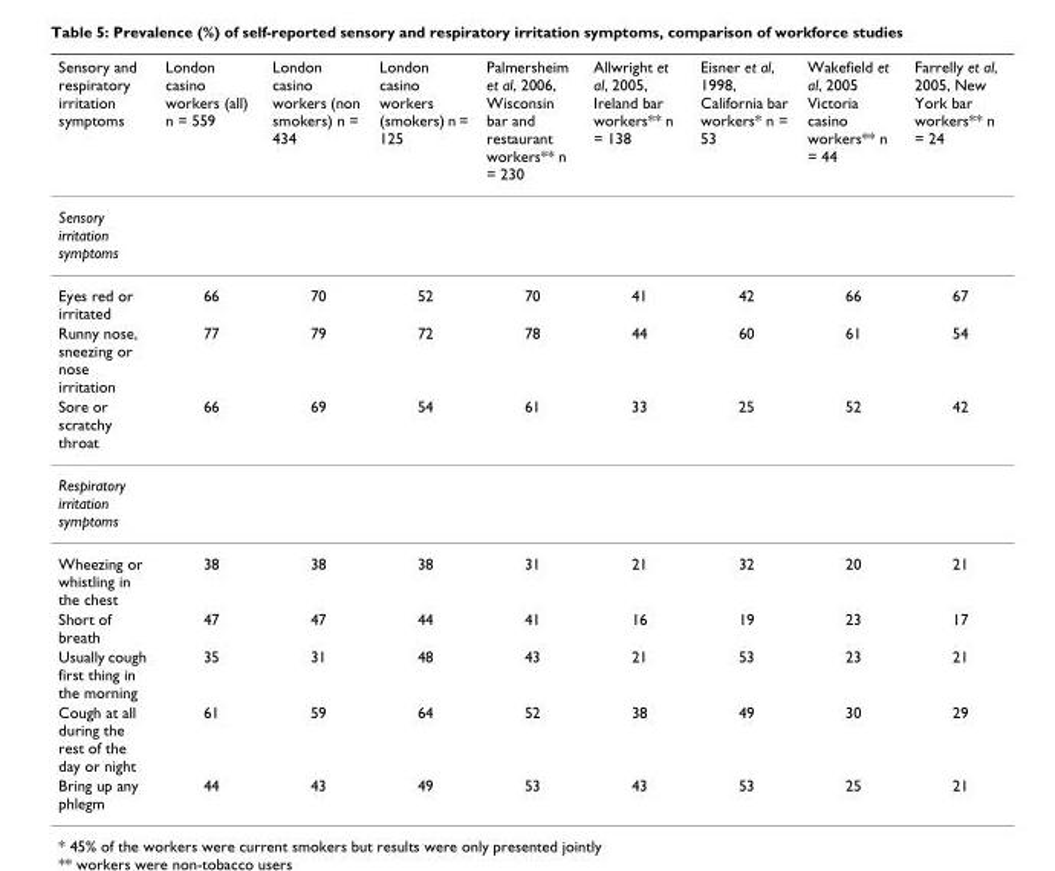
<table><thead><tr><td>Sensory and respiratory irritation symptoms</td><td>London casino workers (all) n = 559</td><td>London casino workers (non smokers) n = 434</td><td>London casino workers (smokers) n = 125</td><td>Palmersheim et al, 2006, Wisconsin bar and restaurant workers** n = 230</td><td>Allwright et al, 2005, Ireland bar workers** n = 138</td><td>Eisner et al, 1998, California bar workers* n = 53</td><td>Wakefield et al, 2005 Victoria casino workers** n = 44</td><td>Farrelly et al, 2005, New York bar workers** n = 24</td></tr></thead><tbody><tr><td colspan="9">Sensory irritation symptoms</td></tr><tr><td>Eyes red or irritated</td><td>66</td><td>70</td><td>52</td><td>70</td><td>41</td><td>42</td><td>66</td><td>67</td></tr><tr><td>Runny nose, sneezing or nose irritation</td><td>77</td><td>79</td><td>72</td><td>78</td><td>44</td><td>60</td><td>61</td><td>54</td></tr><tr><td>Sore or scratchy throat</td><td>66</td><td>69</td><td>54</td><td>61</td><td>33</td><td>25</td><td>52</td><td>42</td></tr><tr><td colspan="9">Respiratory irritation symptoms</td></tr><tr><td>Wheezing or whistling in the chest</td><td>38</td><td>38</td><td>38</td><td>31</td><td>21</td><td>32</td><td>20</td><td>21</td></tr><tr><td>Short of breath</td><td>47</td><td>47</td><td>44</td><td>41</td><td>16</td><td>19</td><td>23</td><td>17</td></tr><tr><td>Usually cough first thing in the morning</td><td>35</td><td>31</td><td>48</td><td>43</td><td>21</td><td>53</td><td>23</td><td>21</td></tr><tr><td>Cough at all during the rest of the day or night</td><td>61</td><td>59</td><td>64</td><td>52</td><td>38</td><td>49</td><td>30</td><td>29</td></tr><tr><td>Bring up any phlegm</td><td>44</td><td>43</td><td>49</td><td>53</td><td>43</td><td>53</td><td>25</td><td>21</td></tr></tbody></table>